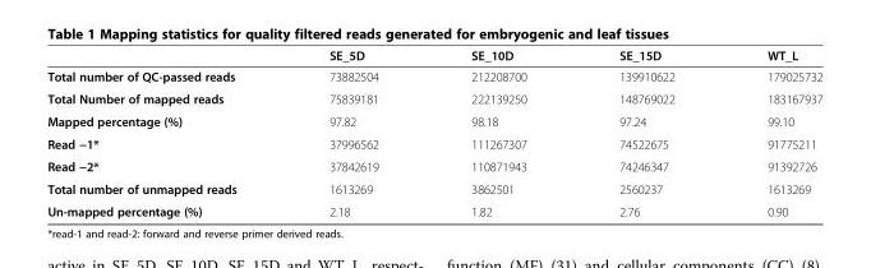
<table><thead><tr><td></td><td>SE_5D</td><td>SE_10D</td><td>SE_15D</td><td>WT_L</td></tr></thead><tbody><tr><td>Total number of QC-passed reads</td><td>73882504</td><td>212208700</td><td>139910622</td><td>179025732</td></tr><tr><td>Total Number of mapped reads</td><td>75839181</td><td>222139250</td><td>148769022</td><td>183167937</td></tr><tr><td>Mapped percentage (%)</td><td>97.82</td><td>98.18</td><td>97.24</td><td>99.10</td></tr><tr><td>Read −1*</td><td>37996562</td><td>111267307</td><td>74522675</td><td>91775211</td></tr><tr><td>Read −2*</td><td>37842619</td><td>110871943</td><td>74246347</td><td>91392726</td></tr><tr><td>Total number of unmapped reads</td><td>1613269</td><td>3862501</td><td>2560237</td><td>1613269</td></tr><tr><td>Un-mapped percentage (%)</td><td>2.18</td><td>1.82</td><td>2.76</td><td>0.90</td></tr></tbody></table>